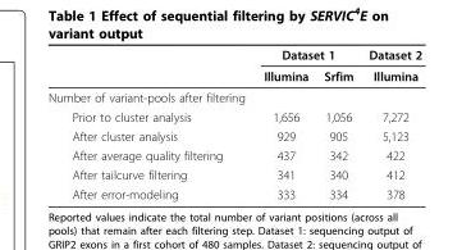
<table><thead><tr><td rowspan="2"></td><td colspan="2">Dataset 1</td><td rowspan="2">Dataset 2 Illumina</td></tr><tr><td>Illumina</td><td>Srfim</td></tr></thead><tbody><tr><td colspan="4">Number of variant-pools after filtering</td></tr><tr><td>Prior to cluster analysis</td><td>1,656</td><td>1,056</td><td>7,272</td></tr><tr><td>After cluster analysis</td><td>929</td><td>905</td><td>5,123</td></tr><tr><td>After average quality filtering</td><td>437</td><td>342</td><td>422</td></tr><tr><td>After tailcurve filtering</td><td>341</td><td>340</td><td>412</td></tr><tr><td>After error-modeling</td><td>333</td><td>334</td><td>378</td></tr></tbody></table>